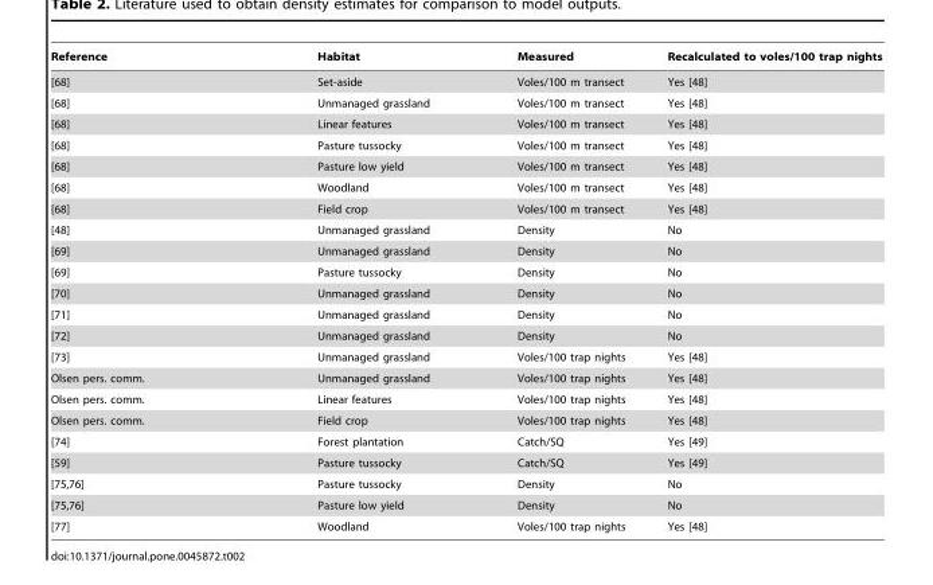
<table><thead><tr><td>Reference</td><td>Habitat</td><td>Measured</td><td>Recalculated to voles/100 trap nights</td></tr></thead><tbody><tr><td>[68]</td><td>Set-aside</td><td>Voles/100 m transect</td><td>Yes [48]</td></tr><tr><td>[68]</td><td>Unmanaged grassland</td><td>Voles/100 m transect</td><td>Yes [48]</td></tr><tr><td>[68]</td><td>Linear features</td><td>Voles/100 m transect</td><td>Yes [48]</td></tr><tr><td>[68]</td><td>Pasture tussocky</td><td>Voles/100 m transect</td><td>Yes [48]</td></tr><tr><td>[68]</td><td>Pasture low yield</td><td>Voles/100 m transect</td><td>Yes [48]</td></tr><tr><td>[68]</td><td>Woodland</td><td>Voles/100 m transect</td><td>Yes [48]</td></tr><tr><td>[68]</td><td>Field crop</td><td>Voles/100 m transect</td><td>Yes [48]</td></tr><tr><td>[48]</td><td>Unmanaged grassland</td><td>Density</td><td>No</td></tr><tr><td>[69]</td><td>Unmanaged grassland</td><td>Density</td><td>No</td></tr><tr><td>[69]</td><td>Pasture tussocky</td><td>Density</td><td>No</td></tr><tr><td>[70]</td><td>Unmanaged grassland</td><td>Density</td><td>No</td></tr><tr><td>[71]</td><td>Unmanaged grassland</td><td>Density</td><td>No</td></tr><tr><td>[72]</td><td>Unmanaged grassland</td><td>Density</td><td>No</td></tr><tr><td>[73]</td><td>Unmanaged grassland</td><td>Voles/100 trap nights</td><td>Yes [48]</td></tr><tr><td>Olsen pers. comm.</td><td>Unmanaged grassland</td><td>Voles/100 trap nights</td><td>Yes [48]</td></tr><tr><td>Olsen pers. comm.</td><td>Linear features</td><td>Voles/100 trap nights</td><td>Yes [48]</td></tr><tr><td>Olsen pers. comm.</td><td>Field crop</td><td>Voles/100 trap nights</td><td>Yes [48]</td></tr><tr><td>[74]</td><td>Forest plantation</td><td>Catch/SQ</td><td>Yes [49]</td></tr><tr><td>[59]</td><td>Pasture tussocky</td><td>Catch/SQ</td><td>Yes [49]</td></tr><tr><td>[75,76]</td><td>Pasture tussocky</td><td>Density</td><td>No</td></tr><tr><td>[75,76]</td><td>Pasture low yield</td><td>Density</td><td>No</td></tr><tr><td>[77]</td><td>Woodland</td><td>Voles/100 trap nights</td><td>Yes [48]</td></tr></tbody></table>